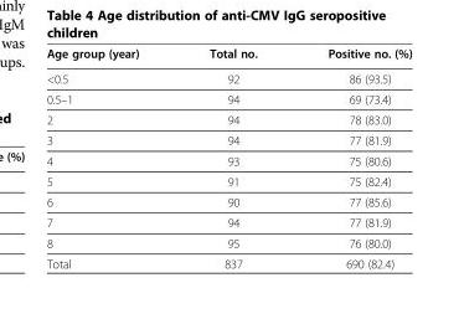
<table><thead><tr><td>Age group (year)</td><td>Total no.</td><td>Positive no. (%)</td></tr></thead><tbody><tr><td>&lt;0.5</td><td>92</td><td>86 (93.5)</td></tr><tr><td>0.5–1</td><td>94</td><td>69 (73.4)</td></tr><tr><td>2</td><td>94</td><td>78 (83.0)</td></tr><tr><td>3</td><td>94</td><td>77 (81.9)</td></tr><tr><td>4</td><td>93</td><td>75 (80.6)</td></tr><tr><td>5</td><td>91</td><td>75 (82.4)</td></tr><tr><td>6</td><td>90</td><td>77 (85.6)</td></tr><tr><td>7</td><td>94</td><td>77 (81.9)</td></tr><tr><td>8</td><td>95</td><td>76 (80.0)</td></tr><tr><td>Total</td><td>837</td><td>690 (82.4)</td></tr></tbody></table>